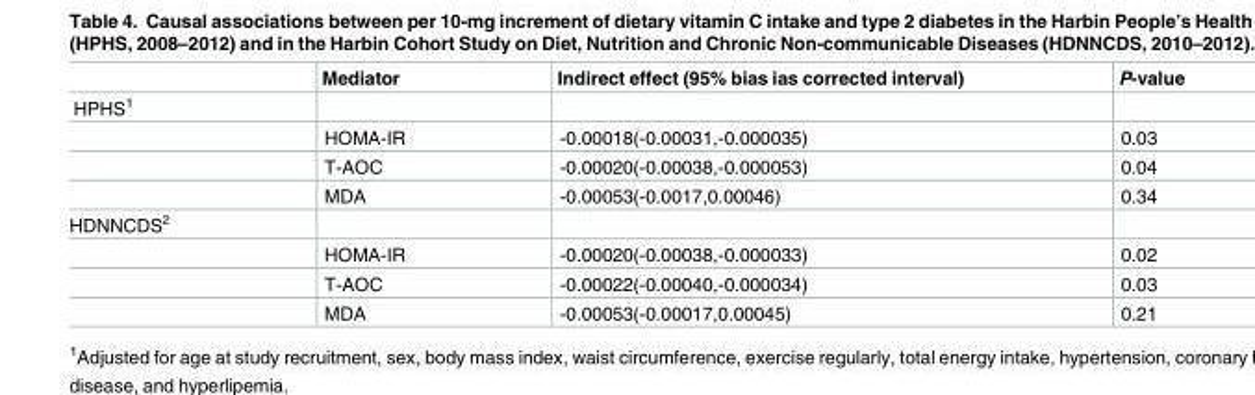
<table><thead><tr><td></td><td>Mediator</td><td>Indirect effect (95% bias ias corrected interval)</td><td>P-value</td></tr></thead><tbody><tr><td colspan="4">HPHS<sup>1</sup></td></tr><tr><td></td><td>HOMA-IR</td><td>-0.00018(-0.00031,-0.000035)</td><td>0.03</td></tr><tr><td></td><td>T-AOC</td><td>-0.00020(-0.00038,-0.000053)</td><td>0.04</td></tr><tr><td></td><td>MDA</td><td>-0.00053(-0.0017,0.00046)</td><td>0.34</td></tr><tr><td colspan="4">HDNNCDS<sup>2</sup></td></tr><tr><td></td><td>HOMA-IR</td><td>-0.00020(-0.00038,-0.000033)</td><td>0.02</td></tr><tr><td></td><td>T-AOC</td><td>-0.00022(-0.00040,-0.000034)</td><td>0.03</td></tr><tr><td></td><td>MDA</td><td>-0.00053(-0.00017,0.00045)</td><td>0.21</td></tr></tbody></table>